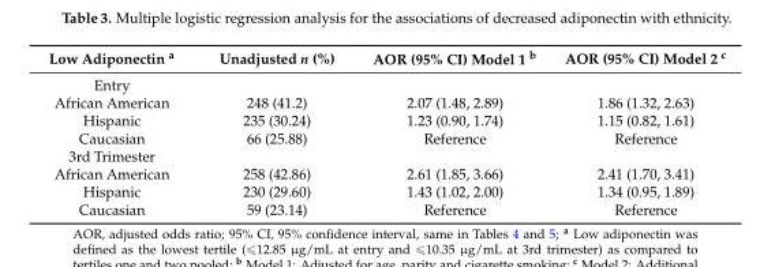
<table><thead><tr><td>Low Adiponectin <sup>a</sup></td><td>Unadjusted n (%)</td><td>AOR (95% CI) Model 1 <sup>b</sup></td><td>AOR (95% CI) Model 2 <sup>c</sup></td></tr></thead><tbody><tr><td colspan="4">Entry</td></tr><tr><td>African American</td><td>248 (41.2)</td><td>2.07 (1.48, 2.89)</td><td>1.86 (1.32, 2.63)</td></tr><tr><td>Hispanic</td><td>235 (30.24)</td><td>1.23 (0.90, 1.74)</td><td>1.15 (0.82, 1.61)</td></tr><tr><td>Caucasian</td><td>66 (25.88)</td><td>Reference</td><td>Reference</td></tr><tr><td colspan="4">3rd Trimester</td></tr><tr><td>African American</td><td>258 (42.86)</td><td>2.61 (1.85, 3.66)</td><td>2.41 (1.70, 3.41)</td></tr><tr><td>Hispanic</td><td>230 (29.60)</td><td>1.43 (1.02, 2.00)</td><td>1.34 (0.95, 1.89)</td></tr><tr><td>Caucasian</td><td>59 (23.14)</td><td>Reference</td><td>Reference</td></tr></tbody></table>